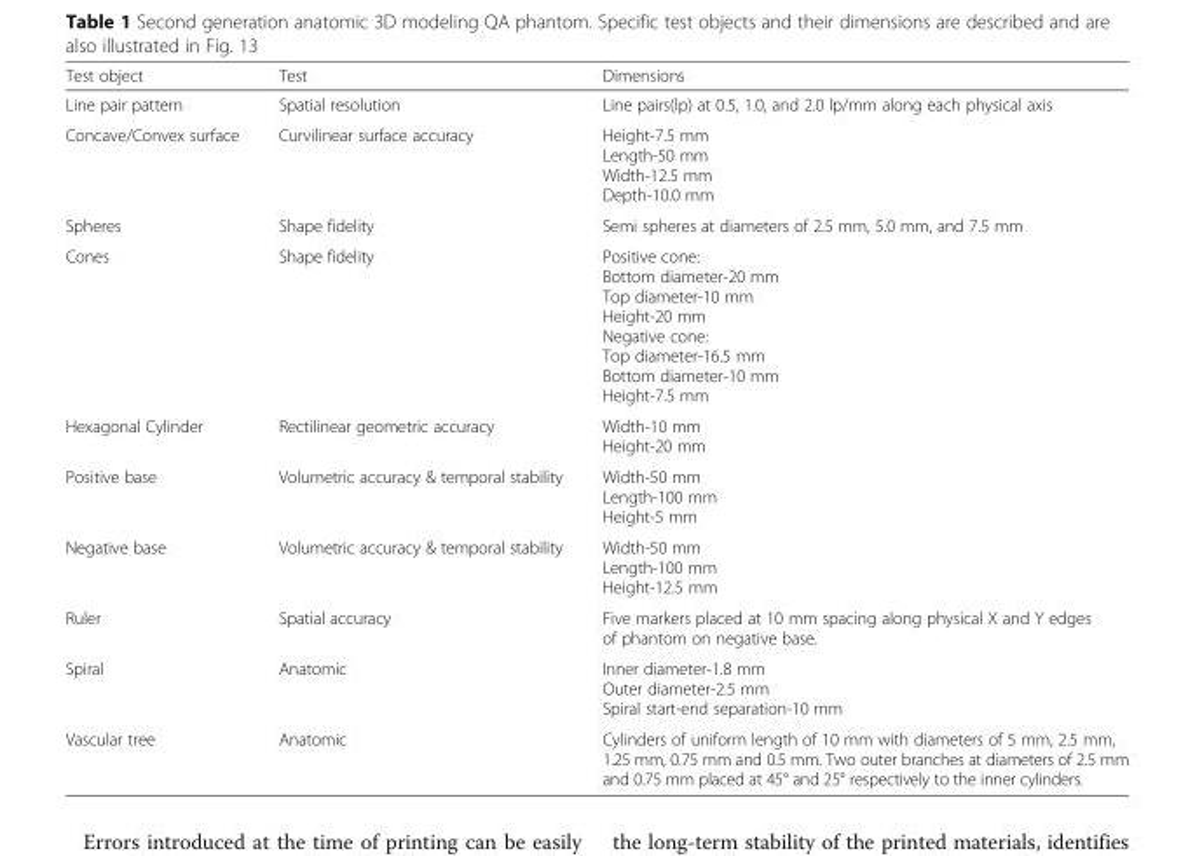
<table><thead><tr><td>Test object</td><td>Test</td><td>Dimensions</td></tr></thead><tbody><tr><td>Line pair pattern</td><td>Spatial resolution</td><td>Line pairs(lp) at 0.5, 1.0, and 2.0 lp/mm along each physical axis</td></tr><tr><td>Concave/Convex surface</td><td>Curvilinear surface accuracy</td><td>Height-7.5 mm Length-50 mm Width-12.5 mm Depth-10.0 mm</td></tr><tr><td>Spheres</td><td>Shape fidelity</td><td>Semi spheres at diameters of 2.5 mm, 5.0 mm, and 7.5 mm</td></tr><tr><td>Cones</td><td>Shape fidelity</td><td>Positive cone: Bottom diameter-20 mm Top diameter-10 mm Height-20 mm Negative cone: Top diameter-16.5 mm Bottom diameter-10 mm Height-7.5 mm</td></tr><tr><td>Hexagonal Cylinder</td><td>Rectilinear geometric accuracy</td><td>Width-10 mm Height-20 mm</td></tr><tr><td>Positive base</td><td>Volumetric accuracy &amp; temporal stability</td><td>Width-50 mm Length-100 mm Height-5 mm</td></tr><tr><td>Negative base</td><td>Volumetric accuracy &amp; temporal stability</td><td>Width-50 mm Length-100 mm Height-12.5 mm</td></tr><tr><td>Ruler</td><td>Spatial accuracy</td><td>Five markers placed at 10 mm spacing along physical X and Y edges of phantom on negative base.</td></tr><tr><td>Spiral</td><td>Anatomic</td><td>Inner diameter-1.8 mm Outer diameter-2.5 mm Spiral start-end separation-10 mm</td></tr><tr><td>Vascular tree</td><td>Anatomic</td><td>Cylinders of uniform length of 10 mm with diameters of 5 mm, 2.5 mm, 1.25 mm, 0.75 mm and 0.5 mm. Two outer branches at diameters of 2.5 mm and 0.75 mm placed at 45° and 25° respectively to the inner cylinders.</td></tr></tbody></table>